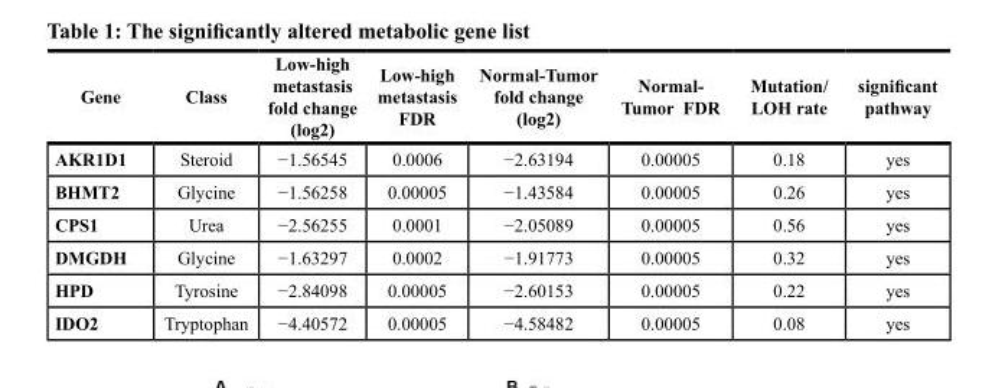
<table><thead><tr><td>Gene</td><td>Class</td><td>Low-high metastasis fold change (log2)</td><td>Low-high metastasis FDR</td><td>Normal-Tumor fold change (log2)</td><td>Normal- Tumor FDR</td><td>Mutation/ LOH rate</td><td>significant pathway</td></tr></thead><tbody><tr><td>AKR1D1</td><td>Steroid</td><td>−1.56545</td><td>0.0006</td><td>−2.63194</td><td>0.00005</td><td>0.18</td><td>yes</td></tr><tr><td>BHMT2</td><td>Glycine</td><td>−1.56258</td><td>0.00005</td><td>−1.43584</td><td>0.00005</td><td>0.26</td><td>yes</td></tr><tr><td>CPS1</td><td>Urea</td><td>−2.56255</td><td>0.0001</td><td>−2.05089</td><td>0.00005</td><td>0.56</td><td>yes</td></tr><tr><td>DMGDH</td><td>Glycine</td><td>−1.63297</td><td>0.0002</td><td>−1.91773</td><td>0.00005</td><td>0.32</td><td>yes</td></tr><tr><td>HPD</td><td>Tyrosine</td><td>−2.84098</td><td>0.00005</td><td>−2.60153</td><td>0.00005</td><td>0.22</td><td>yes</td></tr><tr><td>IDO2</td><td>Tryptophan</td><td>−4.40572</td><td>0.00005</td><td>−4.58482</td><td>0.00005</td><td>0.08</td><td>yes</td></tr></tbody></table>